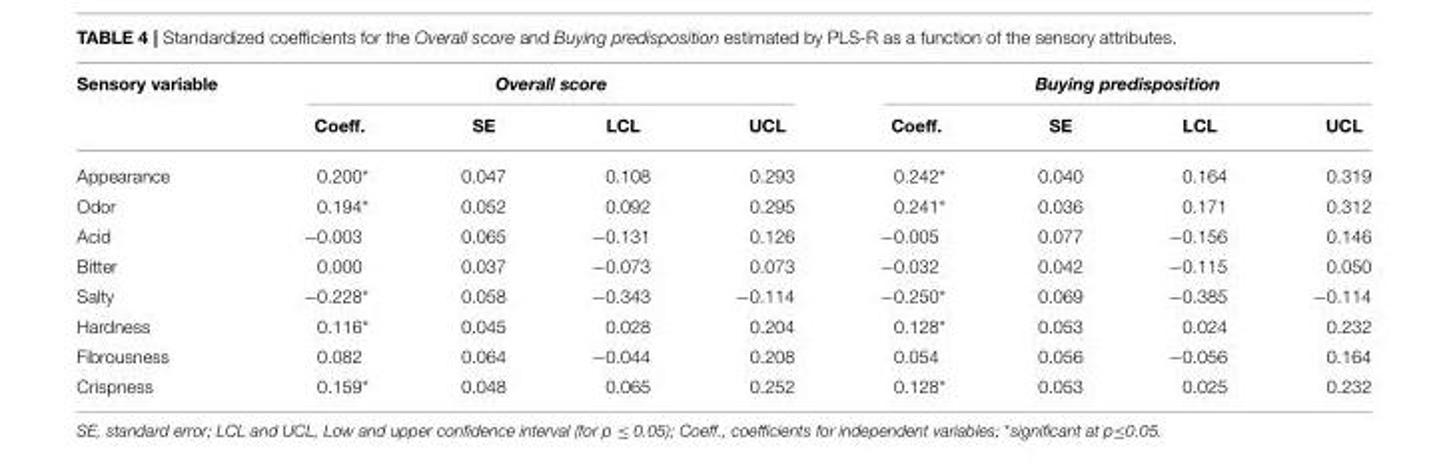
<table><thead><tr><td rowspan="2">Sensory variable</td><td colspan="4">Overall score</td><td colspan="4">Buying predisposition</td></tr><tr><td>Coeff.</td><td>SE</td><td>LCL</td><td>UCL</td><td>Coeff.</td><td>SE</td><td>LCL</td><td>UCL</td></tr></thead><tbody><tr><td>Appearance</td><td>0.200*</td><td>0.047</td><td>0.108</td><td>0.293</td><td>0.242*</td><td>0.040</td><td>0.164</td><td>0.319</td></tr><tr><td>Odor</td><td>0.194*</td><td>0.052</td><td>0.092</td><td>0.295</td><td>0.241*</td><td>0.036</td><td>0.171</td><td>0.312</td></tr><tr><td>Acid</td><td>−0.003</td><td>0.065</td><td>−0.131</td><td>0.126</td><td>−0.005</td><td>0.077</td><td>−0.156</td><td>0.146</td></tr><tr><td>Bitter</td><td>0.000</td><td>0.037</td><td>−0.073</td><td>0.073</td><td>−0.032</td><td>0.042</td><td>−0.115</td><td>0.050</td></tr><tr><td>Salty</td><td>−0.228*</td><td>0.058</td><td>−0.343</td><td>−0.114</td><td>−0.250*</td><td>0.069</td><td>−0.385</td><td>−0.114</td></tr><tr><td>Hardness</td><td>0.116*</td><td>0.045</td><td>0.028</td><td>0.204</td><td>0.128*</td><td>0.053</td><td>0.024</td><td>0.232</td></tr><tr><td>Fibrousness</td><td>0.082</td><td>0.064</td><td>−0.044</td><td>0.208</td><td>0.054</td><td>0.056</td><td>−0.056</td><td>0.164</td></tr><tr><td>Crispness</td><td>0.159*</td><td>0.048</td><td>0.065</td><td>0.252</td><td>0.128*</td><td>0.053</td><td>0.025</td><td>0.232</td></tr></tbody></table>